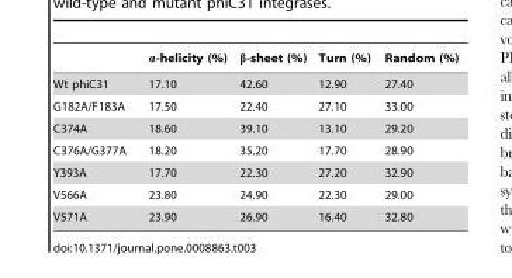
<table><thead><tr><td></td><td>α-helicity (%)</td><td>β-sheet (%)</td><td>Turn (%)</td><td>Random (%)</td></tr></thead><tbody><tr><td>Wt phiC31</td><td>17.10</td><td>42.60</td><td>12.90</td><td>27.40</td></tr><tr><td>G182A/F183A</td><td>17.50</td><td>22.40</td><td>27.10</td><td>33.00</td></tr><tr><td>C374A</td><td>18.60</td><td>39.10</td><td>13.10</td><td>29.20</td></tr><tr><td>C376A/G377A</td><td>18.20</td><td>35.20</td><td>17.70</td><td>28.90</td></tr><tr><td>Y393A</td><td>17.70</td><td>22.30</td><td>27.20</td><td>32.90</td></tr><tr><td>V566A</td><td>23.80</td><td>24.90</td><td>22.30</td><td>29.00</td></tr><tr><td>V571A</td><td>23.90</td><td>26.90</td><td>16.40</td><td>32.80</td></tr></tbody></table>